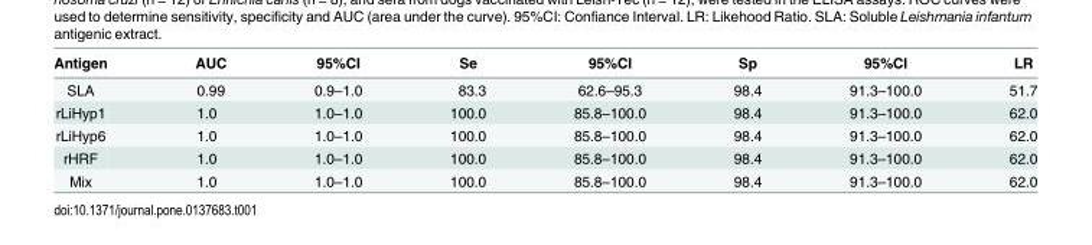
<table><thead><tr><td>Antigen</td><td>AUC</td><td>95%CI</td><td>Se</td><td>95%CI</td><td>Sp</td><td>95%CI</td><td>LR</td></tr></thead><tbody><tr><td>SLA</td><td>0.99</td><td>0.9–1.0</td><td>83.3</td><td>62.6–95.3</td><td>98.4</td><td>91.3–100.0</td><td>51.7</td></tr><tr><td>rLiHyp1</td><td>1.0</td><td>1.0–1.0</td><td>100.0</td><td>85.8–100.0</td><td>98.4</td><td>91.3–100.0</td><td>62.0</td></tr><tr><td>rLiHyp6</td><td>1.0</td><td>1.0–1.0</td><td>100.0</td><td>85.8–100.0</td><td>98.4</td><td>91.3–100.0</td><td>62.0</td></tr><tr><td>rHRF</td><td>1.0</td><td>1.0–1.0</td><td>100.0</td><td>85.8–100.0</td><td>98.4</td><td>91.3–100.0</td><td>62.0</td></tr><tr><td>Mix</td><td>1.0</td><td>1.0–1.0</td><td>100.0</td><td>85.8–100.0</td><td>98.4</td><td>91.3–100.0</td><td>62.0</td></tr></tbody></table>